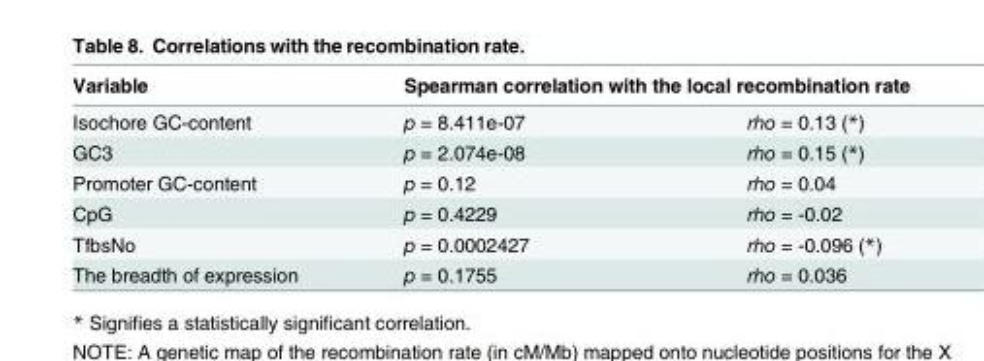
<table><thead><tr><td rowspan="2">Variable Isochore GC-content</td><td colspan="2">Spearman correlation with the local recombination rate</td></tr><tr><td>p = 8.411e-07</td><td>rho = 0.13 (*)</td></tr></thead><tbody><tr><td>GC3</td><td>p = 2.074e-08</td><td>rho = 0.15 (*)</td></tr><tr><td>Promoter GC-content</td><td>p = 0.12</td><td>rho = 0.04</td></tr><tr><td>CpG</td><td>p = 0.4229</td><td>rho = -0.02</td></tr><tr><td>TfbsNo</td><td>p = 0.0002427</td><td>rho = -0.096 (*)</td></tr><tr><td>The breadth of expression</td><td>p = 0.1755</td><td>rho = 0.036</td></tr></tbody></table>